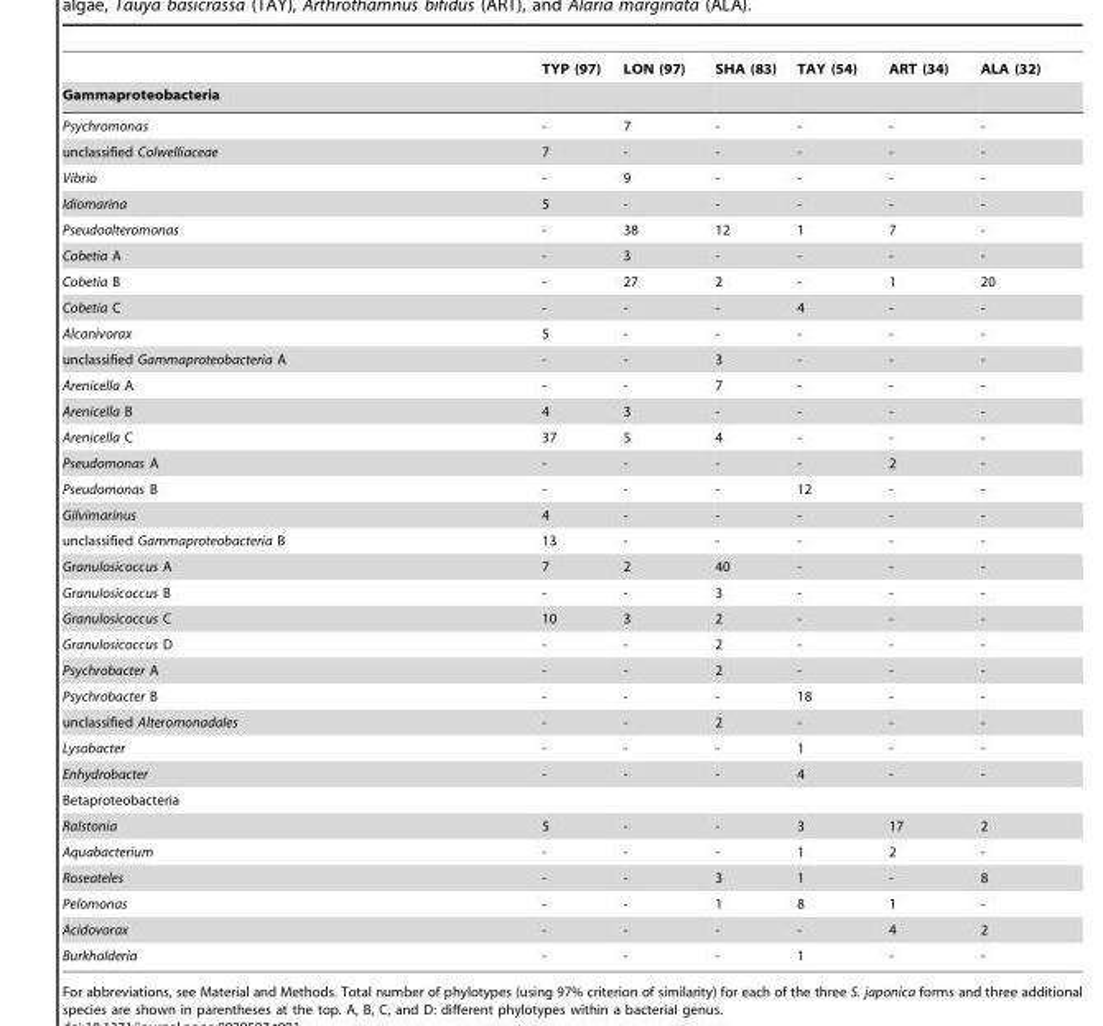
<table><thead><tr><td rowspan="2">Gammaproteobacteria</td><td rowspan="2">TYP (97)</td><td rowspan="2">LON (97)</td><td rowspan="2">SHA (83)</td><td rowspan="2">TAY (54)</td><td rowspan="2">ART (34)</td><td rowspan="2">ALA (32)</td></tr><tr></tr></thead><tbody><tr><td>Psychromonas</td><td>-</td><td>7</td><td>-</td><td>-</td><td>-</td><td>-</td></tr><tr><td>unclassified Colwelliaceae</td><td>7</td><td>-</td><td>-</td><td>-</td><td>-</td><td>-</td></tr><tr><td>Vibrio</td><td>-</td><td>9</td><td>-</td><td>-</td><td>-</td><td>-</td></tr><tr><td>Idiomarina</td><td>5</td><td>-</td><td>-</td><td>-</td><td>-</td><td>-</td></tr><tr><td>Pseudoalteromonas</td><td>-</td><td>38</td><td>12</td><td>1</td><td>7</td><td>-</td></tr><tr><td>Cobetia A</td><td>-</td><td>3</td><td>-</td><td>-</td><td>-</td><td>-</td></tr><tr><td>Cobetia B</td><td>-</td><td>27</td><td>2</td><td>-</td><td>1</td><td>20</td></tr><tr><td>Cobetia C</td><td>-</td><td>-</td><td>-</td><td>4</td><td>-</td><td>-</td></tr><tr><td>Alcanivorax</td><td>5</td><td>-</td><td>-</td><td>-</td><td>-</td><td>-</td></tr><tr><td>unclassified Gammaproteobacteria A</td><td>-</td><td>-</td><td>3</td><td>-</td><td>-</td><td>-</td></tr><tr><td>Arenicella A</td><td>-</td><td>-</td><td>7</td><td>-</td><td>-</td><td>-</td></tr><tr><td>Arenicella B</td><td>4</td><td>3</td><td>-</td><td>-</td><td>-</td><td>-</td></tr><tr><td>Arenicella C</td><td>37</td><td>5</td><td>4</td><td>-</td><td>-</td><td>-</td></tr><tr><td>Pseudomonas A</td><td>-</td><td>-</td><td>-</td><td>-</td><td>2</td><td>-</td></tr><tr><td>Pseudomonas B</td><td>-</td><td>-</td><td>-</td><td>12</td><td>-</td><td>-</td></tr><tr><td>Gilvimarinus</td><td>4</td><td>-</td><td>-</td><td>-</td><td>-</td><td>-</td></tr><tr><td>unclassified Gammaproteobacteria B</td><td>13</td><td>-</td><td>-</td><td>-</td><td>-</td><td>-</td></tr><tr><td>Granulosicoccus A</td><td>7</td><td>2</td><td>40</td><td>-</td><td>-</td><td>-</td></tr><tr><td>Granulosicoccus B</td><td>-</td><td>-</td><td>3</td><td>-</td><td>-</td><td>-</td></tr><tr><td>Granulosicoccus C</td><td>10</td><td>3</td><td>2</td><td>-</td><td>-</td><td>-</td></tr><tr><td>Granulosicoccus D</td><td>-</td><td>-</td><td>2</td><td>-</td><td>-</td><td>-</td></tr><tr><td>Psychrobacter A</td><td>-</td><td>-</td><td>2</td><td>-</td><td>-</td><td>-</td></tr><tr><td>Psychrobacter B</td><td>-</td><td>-</td><td>-</td><td>18</td><td>-</td><td>-</td></tr><tr><td>unclassified Alteromonadales</td><td>-</td><td>-</td><td>2</td><td>-</td><td>-</td><td>-</td></tr><tr><td>Lysobacter</td><td>-</td><td>-</td><td>-</td><td>1</td><td>-</td><td>-</td></tr><tr><td>Enhydrobacter</td><td>-</td><td>-</td><td>-</td><td>4</td><td>-</td><td>-</td></tr><tr><td colspan="7">Betaproteobacteria</td></tr><tr><td>Ralstonia</td><td>5</td><td>-</td><td>-</td><td>3</td><td>17</td><td>2</td></tr><tr><td>Aquabacterium</td><td>-</td><td>-</td><td>-</td><td>1</td><td>2</td><td>-</td></tr><tr><td>Roseateles</td><td>-</td><td>-</td><td>3</td><td>1</td><td>-</td><td>8</td></tr><tr><td>Pelomonas</td><td>-</td><td>-</td><td>1</td><td>8</td><td>1</td><td>-</td></tr><tr><td>Acidovorax</td><td>-</td><td>-</td><td>-</td><td>-</td><td>4</td><td>2</td></tr><tr><td>Burkholderia</td><td>-</td><td>-</td><td>-</td><td>1</td><td>-</td><td>-</td></tr></tbody></table>